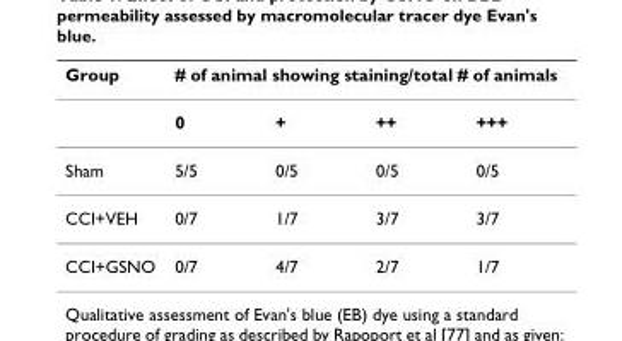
<table><thead><tr><td rowspan="2">Group</td><td colspan="4"># of animal showing staining/total # of animals</td></tr><tr><td>0</td><td>+</td><td>++</td><td>+++</td></tr></thead><tbody><tr><td>Sham</td><td>5/5</td><td>0/5</td><td>0/5</td><td>0/5</td></tr><tr><td>CCI+VEH</td><td>0/7</td><td>1/7</td><td>3/7</td><td>3/7</td></tr><tr><td>CCI+GSNO</td><td>0/7</td><td>4/7</td><td>2/7</td><td>1/7</td></tr></tbody></table>